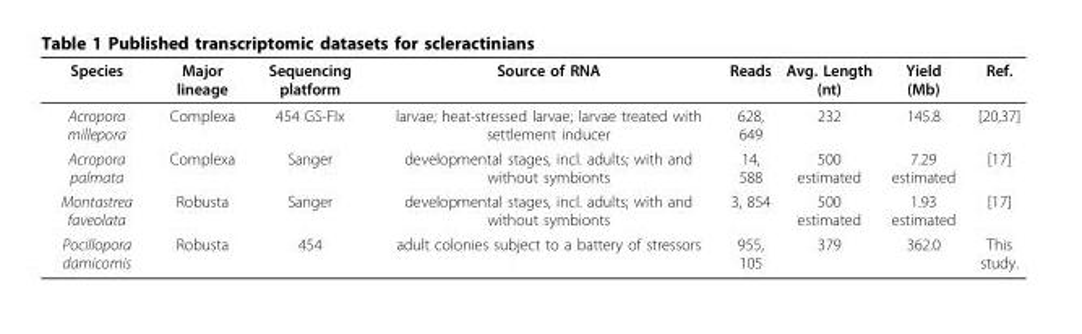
<table><thead><tr><td>Species</td><td>Major lineage</td><td>Sequencing platform</td><td>Source of RNA</td><td>Reads</td><td>Avg. Length (nt)</td><td>Yield (Mb)</td><td>Ref.</td></tr></thead><tbody><tr><td>Acropora millepora</td><td>Complexa</td><td>454 GS-Flx</td><td>larvae; heat-stressed larvae; larvae treated with settlement inducer</td><td>628, 649</td><td>232</td><td>145.8</td><td>[20,37]</td></tr><tr><td>Acropora palmata</td><td>Complexa</td><td>Sanger</td><td>developmental stages, incl. adults; with and without symbionts</td><td>14, 588</td><td>500 estimated</td><td>7.29 estimated</td><td>[17]</td></tr><tr><td>Montastrea faveolata</td><td>Robusta</td><td>Sanger</td><td>developmental stages, incl. adults; with and without symbionts</td><td>3, 854</td><td>500 estimated</td><td>1.93 estimated</td><td>[17]</td></tr><tr><td>Pocillopora damicornis</td><td>Robusta</td><td>454</td><td>adult colonies subject to a battery of stressors</td><td>955, 105</td><td>379</td><td>362.0</td><td>This study.</td></tr></tbody></table>